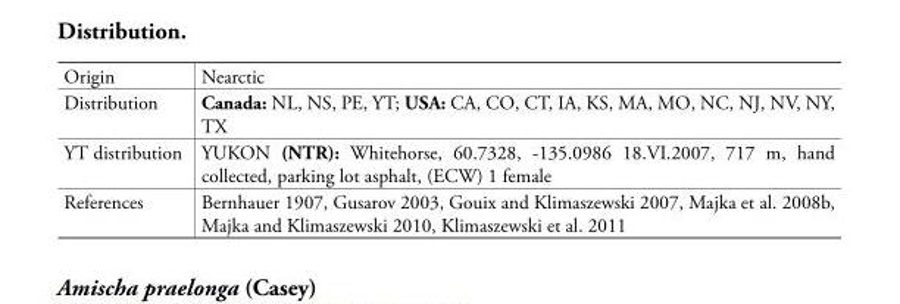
<table><tbody><tr><td>Origin</td><td>Nearctic</td></tr><tr><td>Distribution</td><td>Canada: NL, NS, PE, YT; USA: CA, CO, CT, IA, KS, MA, MO, NC, NJ, NV, NY, TX</td></tr><tr><td>YT distribution</td><td>YUKON (NTR): Whitehorse, 60.7328, -135.0986 18.VI.2007, 717 m, hand collected, parking lot asphalt, (ECW) 1 female</td></tr><tr><td>References</td><td>Bernhauer 1907, Gusarov 2003, Gouix and Klimaszewski 2007, Majka et al. 2008b, Majka and Klimaszewski 2010, Klimaszewski et al. 2011</td></tr></tbody></table>